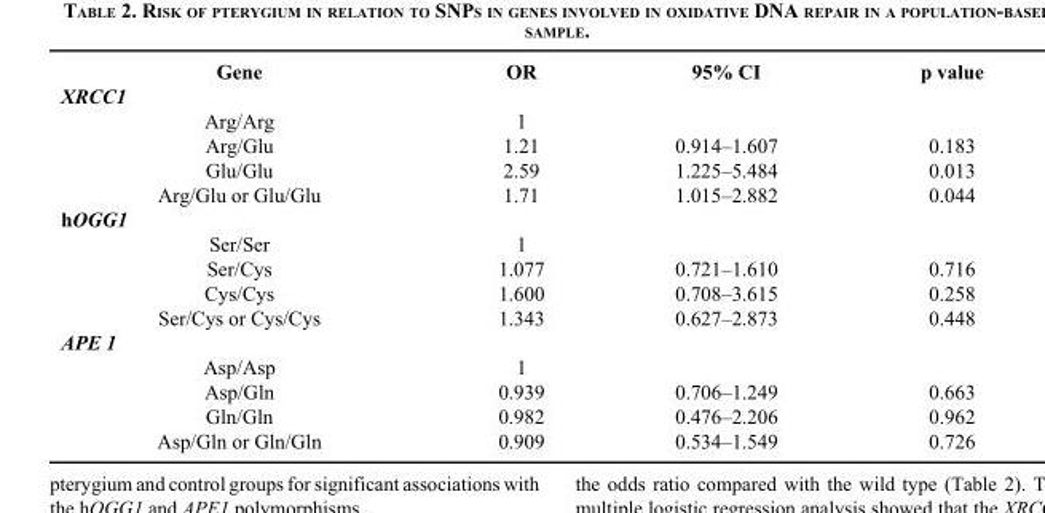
<table><thead><tr><td>Gene</td><td>OR</td><td>95% CI</td><td>p value</td></tr></thead><tbody><tr><td colspan="4">XRCC1</td></tr><tr><td>Arg/Arg</td><td>1</td><td></td><td></td></tr><tr><td>Arg/Glu</td><td>1.21</td><td>0.914–1.607</td><td>0.183</td></tr><tr><td>Glu/Glu</td><td>2.59</td><td>1.225–5.484</td><td>0.013</td></tr><tr><td>Arg/Glu or Glu/Glu</td><td>1.71</td><td>1.015–2.882</td><td>0.044</td></tr><tr><td colspan="4">hOGG1</td></tr><tr><td>Ser/Ser</td><td>1</td><td></td><td></td></tr><tr><td>Ser/Cys</td><td>1.077</td><td>0.721–1.610</td><td>0.716</td></tr><tr><td>Cys/Cys</td><td>1.600</td><td>0.708–3.615</td><td>0.258</td></tr><tr><td>Ser/Cys or Cys/Cys</td><td>1.343</td><td>0.627–2.873</td><td>0.448</td></tr><tr><td colspan="4">APE 1</td></tr><tr><td>Asp/Asp</td><td>1</td><td></td><td></td></tr><tr><td>Asp/Gln</td><td>0.939</td><td>0.706–1.249</td><td>0.663</td></tr><tr><td>Gln/Gln</td><td>0.982</td><td>0.476–2.206</td><td>0.962</td></tr><tr><td>Asp/Gln or Gln/Gln</td><td>0.909</td><td>0.534–1.549</td><td>0.726</td></tr></tbody></table>